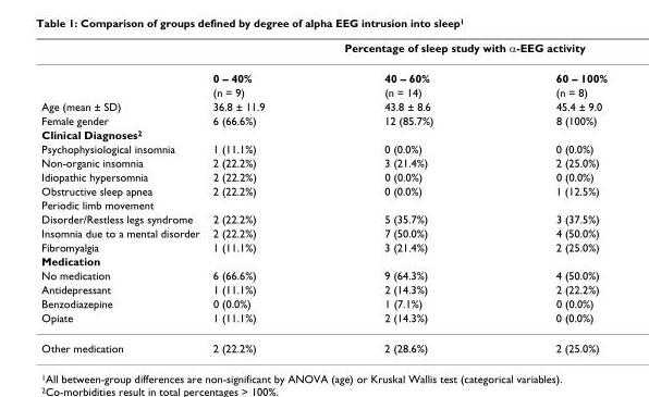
<table><thead><tr><td rowspan="2"></td><td colspan="3">Percentage of sleep study with α-EEG activity</td></tr><tr><td>0 – 40%</td><td>40 – 60%</td><td>60 – 100%</td></tr></thead><tbody><tr><td></td><td>(n = 9)</td><td>(n = 14)</td><td>(n = 8)</td></tr><tr><td>Age (mean ± SD)</td><td>36.8 ± 11.9</td><td>43.8 ± 8.6</td><td>45.4 ± 9.0</td></tr><tr><td>Female gender</td><td>6 (66.6%)</td><td>12 (85.7%)</td><td>8 (100%)</td></tr><tr><td colspan="4">Clinical Diagnoses<sup>2</sup></td></tr><tr><td>Psychophysiological insomnia</td><td>1 (11.1%)</td><td>0 (0.0%)</td><td>0 (0.0%)</td></tr><tr><td>Non-organic insomnia</td><td>2 (22.2%)</td><td>3 (21.4%)</td><td>2 (25.0%)</td></tr><tr><td>Idiopathic hypersomnia</td><td>2 (22.2%)</td><td>0 (0.0%)</td><td>0 (0.0%)</td></tr><tr><td>Obstructive sleep apnea</td><td>2 (22.2%)</td><td>0 (0.0%)</td><td>1 (12.5%)</td></tr><tr><td colspan="4">Periodic limb movement</td></tr><tr><td>Disorder/Restless legs syndrome</td><td>2 (22.2%)</td><td>5 (35.7%)</td><td>3 (37.5%)</td></tr><tr><td>Insomnia due to a mental disorder</td><td>2 (22.2%)</td><td>7 (50.0%)</td><td>4 (50.0%)</td></tr><tr><td>Fibromyalgia</td><td>1 (11.1%)</td><td>3 (21.4%)</td><td>2 (25.0%)</td></tr><tr><td colspan="4">Medication</td></tr><tr><td>No medication</td><td>6 (66.6%)</td><td>9 (64.3%)</td><td>4 (50.0%)</td></tr><tr><td>Antidepressant</td><td>1 (11.1%)</td><td>2 (14.3%)</td><td>2 (22.2%)</td></tr><tr><td>Benzodiazepine</td><td>0 (0.0%)</td><td>1 (7.1%)</td><td>0 (0.0%)</td></tr><tr><td>Opiate</td><td>1 (11.1%)</td><td>2 (14.3%)</td><td>0 (0.0%)</td></tr><tr><td>Other medication</td><td>2 (22.2%)</td><td>2 (28.6%)</td><td>2 (25.0%)</td></tr></tbody></table>